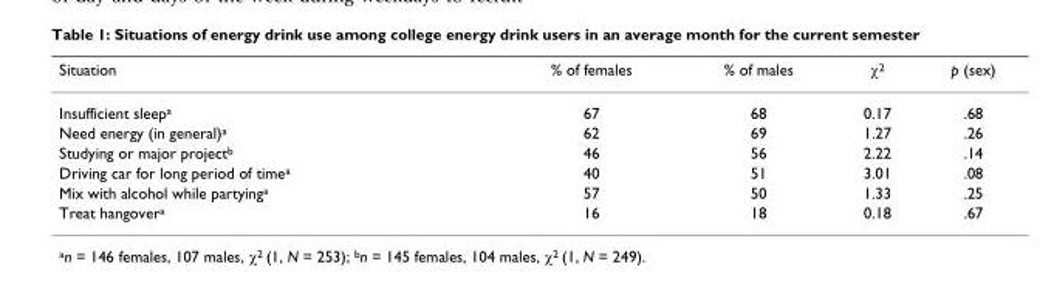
<table><thead><tr><td>Situation</td><td>% of females</td><td>% of males</td><td>χ<sup>2</sup></td><td>p (sex)</td></tr></thead><tbody><tr><td>Insufficient sleep<sup>a</sup></td><td>67</td><td>68</td><td>0.17</td><td>.68</td></tr><tr><td>Need energy (in general)<sup>a</sup></td><td>62</td><td>69</td><td>1.27</td><td>.26</td></tr><tr><td>Studying or major project<sup>b</sup></td><td>46</td><td>56</td><td>2.22</td><td>.14</td></tr><tr><td>Driving car for long period of time<sup>a</sup></td><td>40</td><td>51</td><td>3.01</td><td>.08</td></tr><tr><td>Mix with alcohol while partying<sup>a</sup></td><td>57</td><td>50</td><td>1.33</td><td>.25</td></tr><tr><td>Treat hangover<sup>a</sup></td><td>16</td><td>18</td><td>0.18</td><td>.67</td></tr></tbody></table>